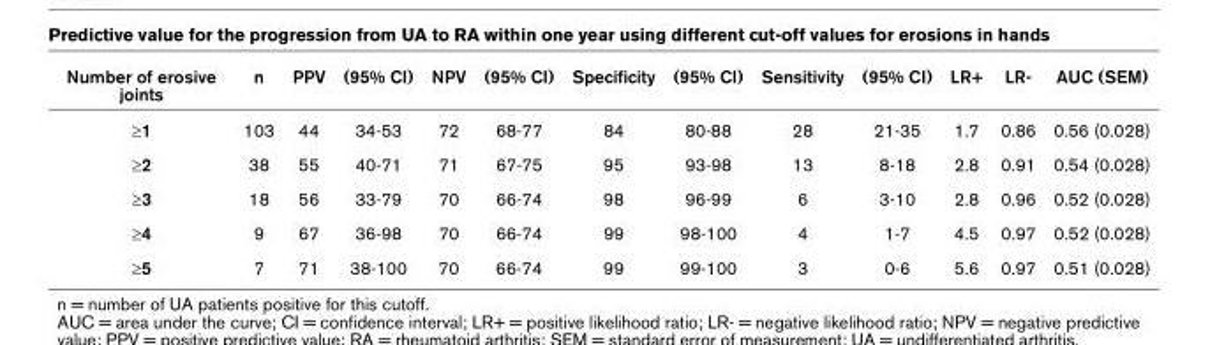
<table><thead><tr><td>Number of erosive joints</td><td>n</td><td>PPV</td><td>(95% CI)</td><td>NPV</td><td>(95% CI)</td><td>Specificity</td><td>(95% CI)</td><td>Sensitivity</td><td>(95% CI)</td><td>LR+</td><td>LR-</td><td>AUC (SEM)</td></tr></thead><tbody><tr><td>≥1</td><td>103</td><td>44</td><td>34-53</td><td>72</td><td>68-77</td><td>84</td><td>80-88</td><td>28</td><td>21-35</td><td>1.7</td><td>0.86</td><td>0.56 (0.028)</td></tr><tr><td>≥2</td><td>38</td><td>55</td><td>40-71</td><td>71</td><td>67-75</td><td>95</td><td>93-98</td><td>13</td><td>8-18</td><td>2.8</td><td>0.91</td><td>0.54 (0.028)</td></tr><tr><td>≥3</td><td>18</td><td>56</td><td>33-79</td><td>70</td><td>66-74</td><td>98</td><td>96-99</td><td>6</td><td>3-10</td><td>2.8</td><td>0.96</td><td>0.52 (0.028)</td></tr><tr><td>≥4</td><td>9</td><td>67</td><td>36-98</td><td>70</td><td>66-74</td><td>99</td><td>98-100</td><td>4</td><td>1-7</td><td>4.5</td><td>0.97</td><td>0.52 (0.028)</td></tr><tr><td>≥5</td><td>7</td><td>71</td><td>38-100</td><td>70</td><td>66-74</td><td>99</td><td>99-100</td><td>3</td><td>0-6</td><td>5.6</td><td>0.97</td><td>0.51 (0.028)</td></tr></tbody></table>